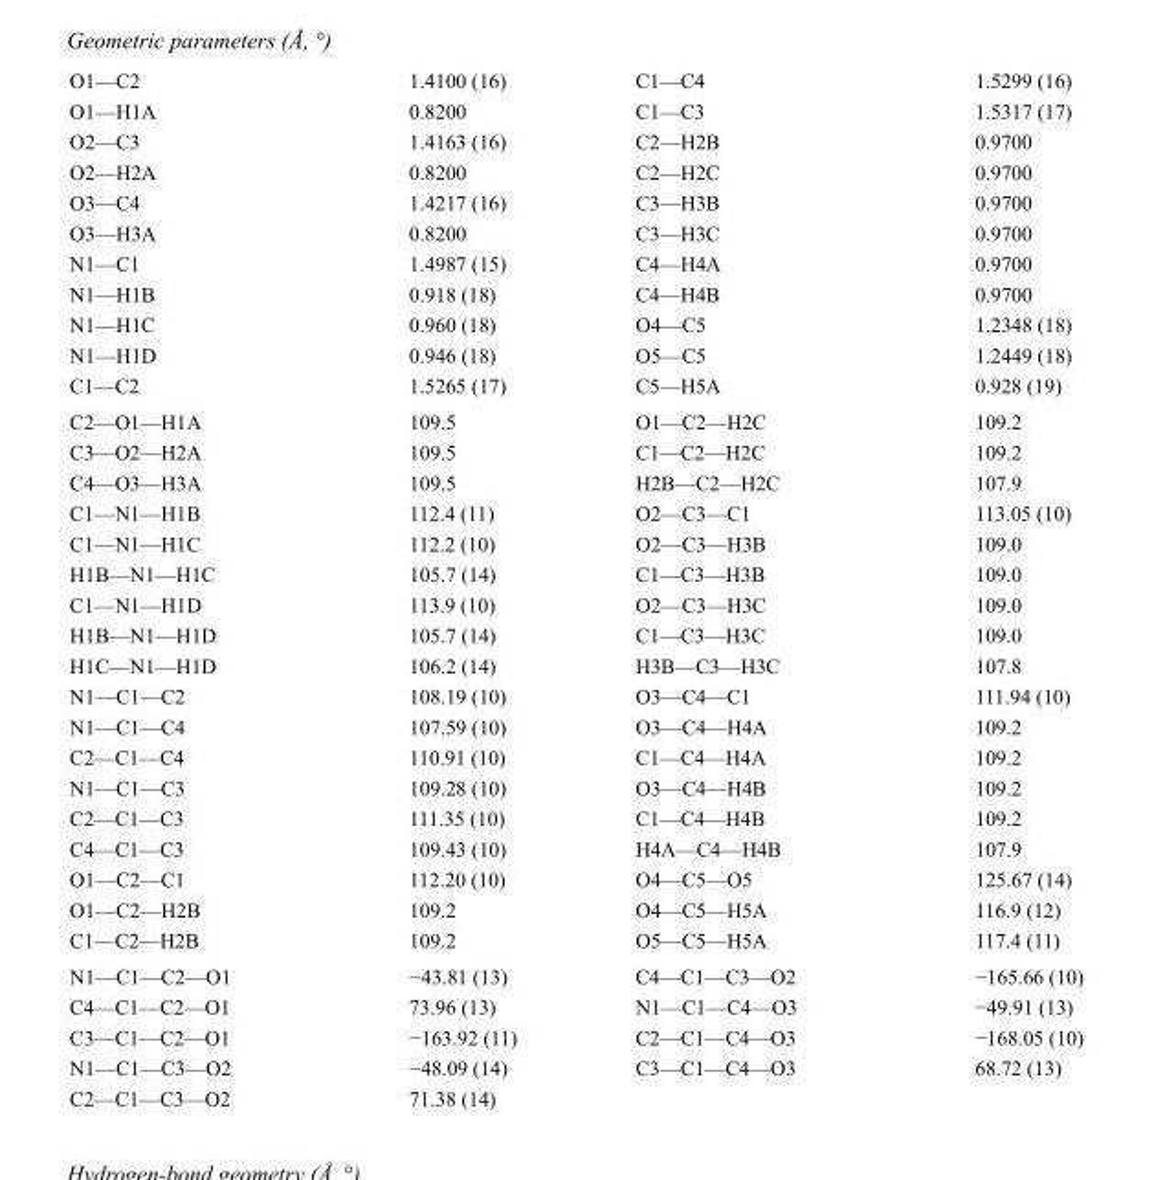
<table><tbody><tr><td>O1—C2</td><td>1.4100 (16)</td><td>C1—C4</td><td>1.5299 (16)</td></tr><tr><td>O1—H1A</td><td>0.8200</td><td>C1—C3</td><td>1.5317 (17)</td></tr><tr><td>O2—C3</td><td>1.4163 (16)</td><td>C2—H2B</td><td>0.9700</td></tr><tr><td>O2—H2A</td><td>0.8200</td><td>C2—H2C</td><td>0.9700</td></tr><tr><td>O3—C4</td><td>1.4217 (16)</td><td>C3—H3B</td><td>0.9700</td></tr><tr><td>O3—H3A</td><td>0.8200</td><td>C3—H3C</td><td>0.9700</td></tr><tr><td>N1—C1</td><td>1.4987 (15)</td><td>C4—H4A</td><td>0.9700</td></tr><tr><td>N1—H1B</td><td>0.918 (18)</td><td>C4—H4B</td><td>0.9700</td></tr><tr><td>N1—H1C</td><td>0.960 (18)</td><td>O4—C5</td><td>1.2348 (18)</td></tr><tr><td>N1—H1D</td><td>0.946 (18)</td><td>O5—C5</td><td>1.2449 (18)</td></tr><tr><td>C1—C2</td><td>1.5265 (17)</td><td>C5—H5A</td><td>0.928 (19)</td></tr><tr><td>C2—O1—H1A</td><td>109.5</td><td>O1—C2—H2C</td><td>109.2</td></tr><tr><td>C3—O2—H2A</td><td>109.5</td><td>C1—C2—H2C</td><td>109.2</td></tr><tr><td>C4—O3—H3A</td><td>109.5</td><td>H2B—C2—H2C</td><td>107.9</td></tr><tr><td>C1—N1—H1B</td><td>112.4 (11)</td><td>O2—C3—C1</td><td>113.05 (10)</td></tr><tr><td>C1—N1—H1C</td><td>112.2 (10)</td><td>O2—C3—H3B</td><td>109.0</td></tr><tr><td>H1B—N1—H1C</td><td>105.7 (14)</td><td>C1—C3—H3B</td><td>109.0</td></tr><tr><td>C1—N1—H1D</td><td>113.9 (10)</td><td>O2—C3—H3C</td><td>109.0</td></tr><tr><td>H1B—N1—H1D</td><td>105.7 (14)</td><td>C1—C3—H3C</td><td>109.0</td></tr><tr><td>H1C—N1—H1D</td><td>106.2 (14)</td><td>H3B—C3—H3C</td><td>107.8</td></tr><tr><td>N1—C1—C2</td><td>108.19 (10)</td><td>O3—C4—C1</td><td>111.94 (10)</td></tr><tr><td>N1—C1—C4</td><td>107.59 (10)</td><td>O3—C4—H4A</td><td>109.2</td></tr><tr><td>C2—C1—C4</td><td>110.91 (10)</td><td>C1—C4—H4A</td><td>109.2</td></tr><tr><td>N1—C1—C3</td><td>109.28 (10)</td><td>O3—C4—H4B</td><td>109.2</td></tr><tr><td>C2—C1—C3</td><td>111.35 (10)</td><td>C1—C4—H4B</td><td>109.2</td></tr><tr><td>C4—C1—C3</td><td>109.43 (10)</td><td>H4A—C4—H4B</td><td>107.9</td></tr><tr><td>O1—C2—C1</td><td>112.20 (10)</td><td>O4—C5—O5</td><td>125.67 (14)</td></tr><tr><td>O1—C2—H2B</td><td>109.2</td><td>O4—C5—H5A</td><td>116.9 (12)</td></tr><tr><td>C1—C2—H2B</td><td>109.2</td><td>O5—C5—H5A</td><td>117.4 (11)</td></tr><tr><td>N1—C1—C2—O1</td><td>−43.81 (13)</td><td>C4—C1—C3—O2</td><td>−165.66 (10)</td></tr><tr><td>C4—C1—C2—O1</td><td>73.96 (13)</td><td>N1—C1—C4—O3</td><td>−49.91 (13)</td></tr><tr><td>C3—C1—C2—O1</td><td>−163.92 (11)</td><td>C2—C1—C4—O3</td><td>−168.05 (10)</td></tr><tr><td>N1—C1—C3—O2</td><td>−48.09 (14)</td><td>C3—C1—C4—O3</td><td>68.72 (13)</td></tr><tr><td>C2—C1—C3—O2</td><td>71.38 (14)</td><td></td><td></td></tr></tbody></table>